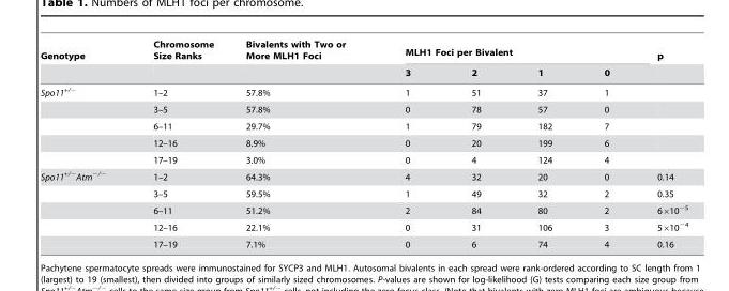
<table><thead><tr><td rowspan="2">Genotype</td><td rowspan="2">Chromosome Size Ranks</td><td rowspan="2">Bivalents with Two or More MLH1 Foci</td><td colspan="4">MLH1 Foci per Bivalent</td><td rowspan="2">p</td></tr><tr><td>3</td><td>2</td><td>1</td><td>0</td></tr></thead><tbody><tr><td rowspan="5">Spo11<sup>+/−</sup></td><td>1–2</td><td>57.8%</td><td>1</td><td>51</td><td>37</td><td>1</td><td></td></tr><tr><td>3–5</td><td>57.8%</td><td>0</td><td>78</td><td>57</td><td>0</td><td></td></tr><tr><td>6–11</td><td>29.7%</td><td>1</td><td>79</td><td>182</td><td>7</td><td></td></tr><tr><td>12–16</td><td>8.9%</td><td>0</td><td>20</td><td>199</td><td>6</td><td></td></tr><tr><td>17–19</td><td>3.0%</td><td>0</td><td>4</td><td>124</td><td>4</td><td></td></tr><tr><td rowspan="5">Spo11<sup>+/−</sup>Atm<sup>−/−</sup></td><td>1–2</td><td>64.3%</td><td>4</td><td>32</td><td>20</td><td>0</td><td>0.14</td></tr><tr><td>3–5</td><td>59.5%</td><td>1</td><td>49</td><td>32</td><td>2</td><td>0.35</td></tr><tr><td>6–11</td><td>51.2%</td><td>2</td><td>84</td><td>80</td><td>2</td><td>6×10<sup>−5</sup></td></tr><tr><td>12–16</td><td>22.1%</td><td>0</td><td>31</td><td>106</td><td>3</td><td>5×10<sup>−4</sup></td></tr><tr><td>17–19</td><td>7.1%</td><td>0</td><td>6</td><td>74</td><td>4</td><td>0.16</td></tr></tbody></table>